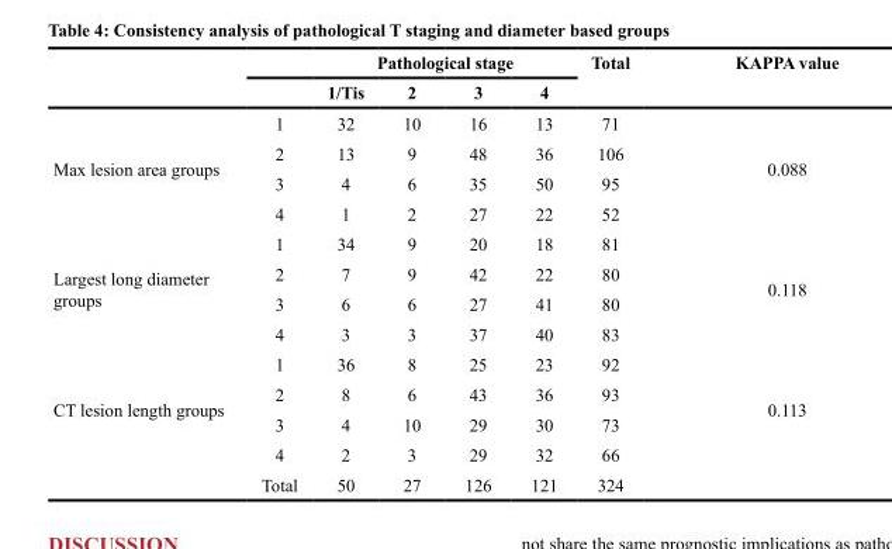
<table><thead><tr><td rowspan="2"></td><td colspan="5">Pathological stage</td><td rowspan="2">Total</td><td rowspan="2">KAPPA value</td></tr><tr><td></td><td>1/Tis</td><td>2</td><td>3</td><td>4</td></tr></thead><tbody><tr><td rowspan="4">Max lesion area groups</td><td>1</td><td>32</td><td>10</td><td>16</td><td>13</td><td>71</td><td rowspan="4">0.088</td></tr><tr><td>2</td><td>13</td><td>9</td><td>48</td><td>36</td><td>106</td></tr><tr><td>3</td><td>4</td><td>6</td><td>35</td><td>50</td><td>95</td></tr><tr><td>4</td><td>1</td><td>2</td><td>27</td><td>22</td><td>52</td></tr><tr><td rowspan="4">Largest long diameter groups</td><td>1</td><td>34</td><td>9</td><td>20</td><td>18</td><td>81</td><td rowspan="4">0.118</td></tr><tr><td>2</td><td>7</td><td>9</td><td>42</td><td>22</td><td>80</td></tr><tr><td>3</td><td>6</td><td>6</td><td>27</td><td>41</td><td>80</td></tr><tr><td>4</td><td>3</td><td>3</td><td>37</td><td>40</td><td>83</td></tr><tr><td rowspan="5">CT lesion length groups</td><td>1</td><td>36</td><td>8</td><td>25</td><td>23</td><td>92</td><td rowspan="4">0.113</td></tr><tr><td>2</td><td>8</td><td>6</td><td>43</td><td>36</td><td>93</td></tr><tr><td>3</td><td>4</td><td>10</td><td>29</td><td>30</td><td>73</td></tr><tr><td>4</td><td>2</td><td>3</td><td>29</td><td>32</td><td>66</td></tr><tr><td>Total</td><td>50</td><td>27</td><td>126</td><td>121</td><td>324</td><td></td></tr></tbody></table>